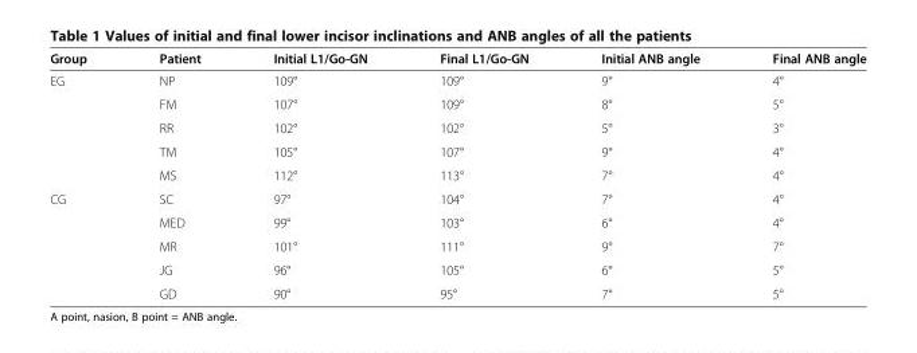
<table><thead><tr><td>Group</td><td>Patient</td><td>Initial L1/Go-GN</td><td>Final L1/Go-GN</td><td>Initial ANB angle</td><td>Final ANB angle</td></tr></thead><tbody><tr><td rowspan="5">EG</td><td>NP</td><td>109°</td><td>109°</td><td>9°</td><td>4°</td></tr><tr><td>FM</td><td>107°</td><td>109°</td><td>8°</td><td>5°</td></tr><tr><td>RR</td><td>102°</td><td>102°</td><td>5°</td><td>3°</td></tr><tr><td>TM</td><td>105°</td><td>107°</td><td>9°</td><td>4°</td></tr><tr><td>MS</td><td>112°</td><td>113°</td><td>7°</td><td>4°</td></tr><tr><td rowspan="5">CG</td><td>SC</td><td>97°</td><td>104°</td><td>7°</td><td>4°</td></tr><tr><td>MED</td><td>99°</td><td>103°</td><td>6°</td><td>4°</td></tr><tr><td>MR</td><td>101°</td><td>111°</td><td>9°</td><td>7°</td></tr><tr><td>JG</td><td>96°</td><td>105°</td><td>6°</td><td>5°</td></tr><tr><td>GD</td><td>90°</td><td>95°</td><td>7°</td><td>5°</td></tr></tbody></table>